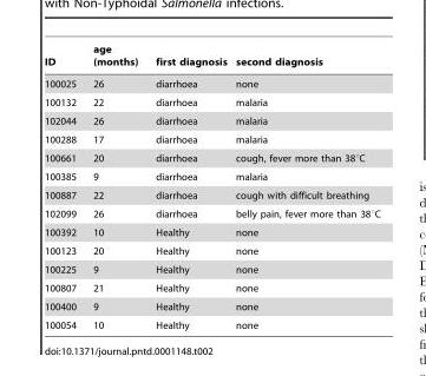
<table><thead><tr><td>ID</td><td>age (months)</td><td>first diagnosis</td><td>second diagnosis</td></tr></thead><tbody><tr><td>100025</td><td>26</td><td>diarrhoea</td><td>none</td></tr><tr><td>100132</td><td>22</td><td>diarrhoea</td><td>malaria</td></tr><tr><td>102044</td><td>26</td><td>diarrhoea</td><td>malaria</td></tr><tr><td>100288</td><td>17</td><td>diarrhoea</td><td>malaria</td></tr><tr><td>100661</td><td>20</td><td>diarrhoea</td><td>cough, fever more than 38°C</td></tr><tr><td>100385</td><td>9</td><td>diarrhoea</td><td>malaria</td></tr><tr><td>100887</td><td>22</td><td>diarrhoea</td><td>cough with difficult breathing</td></tr><tr><td>102099</td><td>26</td><td>diarrhoea</td><td>belly pain, fever more than 38°C</td></tr><tr><td>100392</td><td>10</td><td>Healthy</td><td>none</td></tr><tr><td>100123</td><td>20</td><td>Healthy</td><td>none</td></tr><tr><td>100225</td><td>9</td><td>Healthy</td><td>none</td></tr><tr><td>100807</td><td>21</td><td>Healthy</td><td>none</td></tr><tr><td>100400</td><td>9</td><td>Healthy</td><td>none</td></tr><tr><td>100054</td><td>10</td><td>Healthy</td><td>none</td></tr></tbody></table>